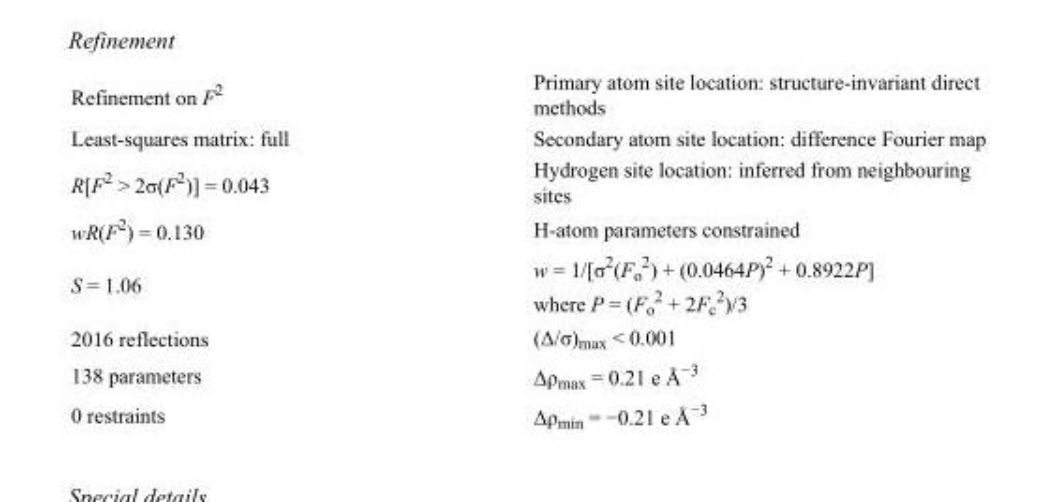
<table><tbody><tr><td>Refinement on F<sup>2</sup></td><td>Primary atom site location: structure-invariant direct methods</td></tr><tr><td>Least-squares matrix: full</td><td>Secondary atom site location: difference Fourier map</td></tr><tr><td>R[F<sup>2</sup> &gt; 2σ(F<sup>2</sup>)] = 0.043</td><td>Hydrogen site location: inferred from neighbouring sites</td></tr><tr><td>wR(F<sup>2</sup>) = 0.130</td><td>H-atom parameters constrained</td></tr><tr><td>S = 1.06</td><td>w = 1/[σ<sup>2</sup>(F<sub>o</sub> <sup>2</sup>) + (0.0464P)<sup>2</sup> + 0.8922P] where P = (F<sub>o</sub> <sup>2</sup> + 2F<sub>c</sub> <sup>2</sup>)/3</td></tr><tr><td>2016 reflections</td><td>(Δ/σ)<sub>max</sub> &lt; 0.001</td></tr><tr><td>138 parameters</td><td>Δρ<sub>max</sub> = 0.21 e Å<sup>−3</sup></td></tr><tr><td>0 restraints</td><td>Δρ<sub>min</sub> = −0.21 e Å<sup>−3</sup></td></tr></tbody></table>